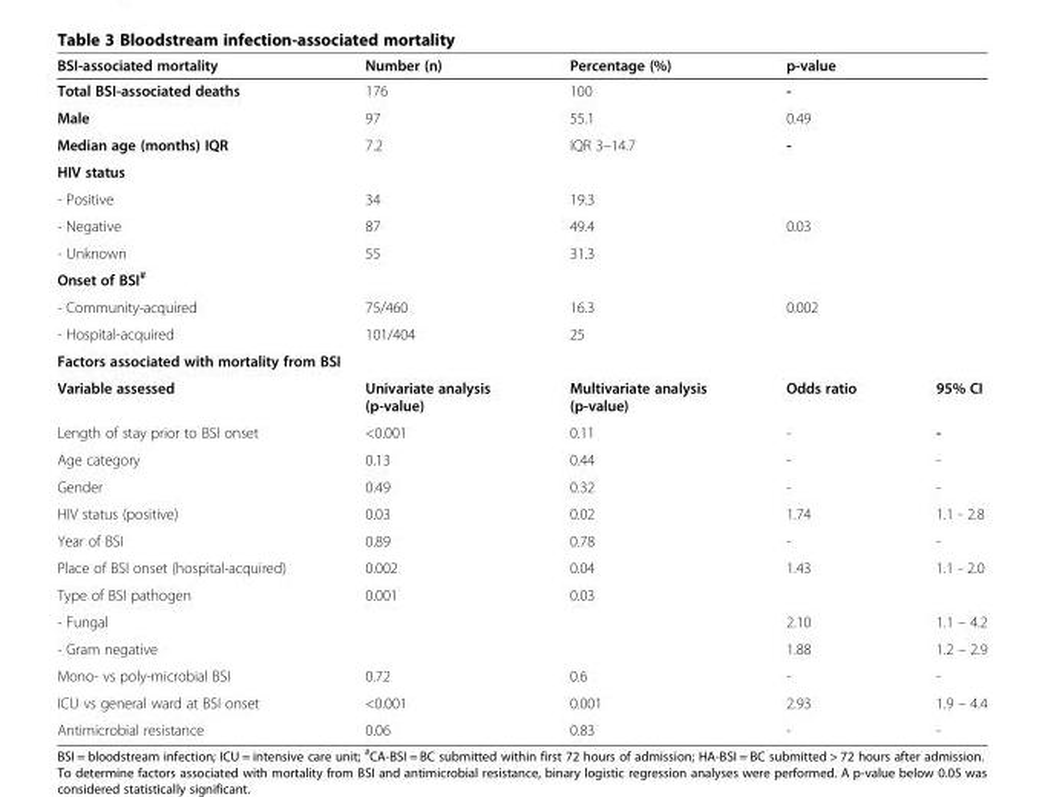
<table><thead><tr><td>BSI-associated mortality</td><td>Number (n)</td><td>Percentage (%)</td><td>p-value</td><td></td></tr></thead><tbody><tr><td>Total BSI-associated deaths</td><td>176</td><td>100</td><td>-</td><td rowspan="10"></td></tr><tr><td>Male</td><td>97</td><td>55.1</td><td>0.49</td></tr><tr><td>Median age (months) IQR</td><td>7.2</td><td>IQR 3–14.7</td><td>-</td></tr><tr><td colspan="4">HIV status</td></tr><tr><td>- Positive</td><td>34</td><td>19.3</td><td></td></tr><tr><td>- Negative</td><td>87</td><td>49.4</td><td>0.03</td></tr><tr><td>- Unknown</td><td>55</td><td>31.3</td><td></td></tr><tr><td colspan="4">Onset of BSI<sup>#</sup></td></tr><tr><td>- Community-acquired</td><td>75/460</td><td>16.3</td><td>0.002</td></tr><tr><td>- Hospital-acquired</td><td>101/404</td><td>25</td><td></td></tr><tr><td colspan="5">Factors associated with mortality from BSI</td></tr><tr><td>Variable assessed</td><td>Univariate analysis (p-value)</td><td>Multivariate analysis (p-value)</td><td>Odds ratio</td><td>95% CI</td></tr><tr><td>Length of stay prior to BSI onset</td><td>&lt;0.001</td><td>0.11</td><td>-</td><td>-</td></tr><tr><td>Age category</td><td>0.13</td><td>0.44</td><td>-</td><td>-</td></tr><tr><td>Gender</td><td>0.49</td><td>0.32</td><td>-</td><td>-</td></tr><tr><td>HIV status (positive)</td><td>0.03</td><td>0.02</td><td>1.74</td><td>1.1 - 2.8</td></tr><tr><td>Year of BSI</td><td>0.89</td><td>0.78</td><td>-</td><td>-</td></tr><tr><td>Place of BSI onset (hospital-acquired)</td><td>0.002</td><td>0.04</td><td>1.43</td><td>1.1 - 2.0</td></tr><tr><td>Type of BSI pathogen</td><td>0.001</td><td>0.03</td><td></td><td></td></tr><tr><td>- Fungal</td><td></td><td></td><td>2.10</td><td>1.1 – 4.2</td></tr><tr><td>- Gram negative</td><td></td><td></td><td>1.88</td><td>1.2 – 2.9</td></tr><tr><td>Mono- vs poly-microbial BSI</td><td>0.72</td><td>0.6</td><td>-</td><td>-</td></tr><tr><td>ICU vs general ward at BSI onset</td><td>&lt;0.001</td><td>0.001</td><td>2.93</td><td>1.9 – 4.4</td></tr><tr><td>Antimicrobial resistance</td><td>0.06</td><td>0.83</td><td>-</td><td>-</td></tr></tbody></table>